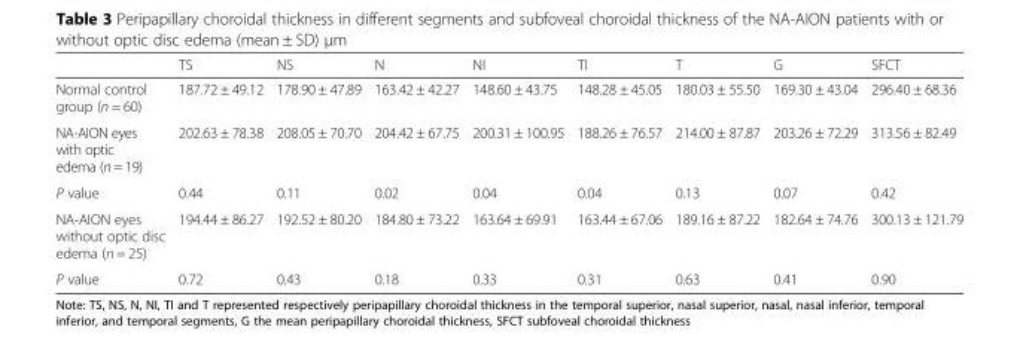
<table><thead><tr><td></td><td>TS</td><td>NS</td><td>N</td><td>NI</td><td>TI</td><td>T</td><td>G</td><td>SFCT</td></tr></thead><tbody><tr><td>Normal control group (n = 60)</td><td>187.72 ± 49.12</td><td>178.90 ± 47.89</td><td>163.42 ± 42.27</td><td>148.60 ± 43.75</td><td>148.28 ± 45.05</td><td>180.03 ± 55.50</td><td>169.30 ± 43.04</td><td>296.40 ± 68.36</td></tr><tr><td>NA-AION eyes with optic edema (n = 19)</td><td>202.63 ± 78.38</td><td>208.05 ± 70.70</td><td>204.42 ± 67.75</td><td>200.31 ± 100.95</td><td>188.26 ± 76.57</td><td>214.00 ± 87.87</td><td>203.26 ± 72.29</td><td>313.56 ± 82.49</td></tr><tr><td>P value</td><td>0.44</td><td>0.11</td><td>0.02</td><td>0.04</td><td>0.04</td><td>0.13</td><td>0.07</td><td>0.42</td></tr><tr><td>NA-AION eyes without optic disc edema (n = 25)</td><td>194.44 ± 86.27</td><td>192.52 ± 80.20</td><td>184.80 ± 73.22</td><td>163.64 ± 69.91</td><td>163.44 ± 67.06</td><td>189.16 ± 87.22</td><td>182.64 ± 74.76</td><td>300.13 ± 121.79</td></tr><tr><td>P value</td><td>0.72</td><td>0.43</td><td>0.18</td><td>0.33</td><td>0.31</td><td>0.63</td><td>0.41</td><td>0.90</td></tr></tbody></table>